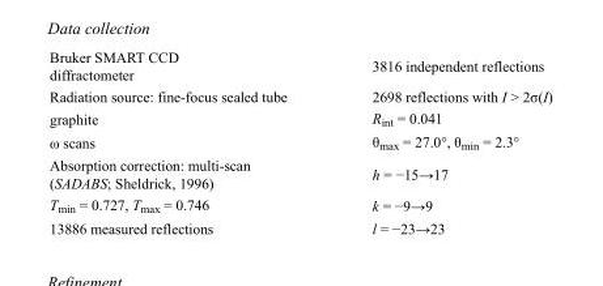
<table><tbody><tr><td>Bruker SMART CCD diffractometer</td><td>3816 independent reflections</td></tr><tr><td>Radiation source: fine-focus sealed tube</td><td>2698 reflections with I &gt; 2σ(I)</td></tr><tr><td>graphite</td><td>R<sub>int</sub> = 0.041</td></tr><tr><td>ω scans</td><td>θ<sub>max</sub> = 27.0°, θ<sub>min</sub> = 2.3°</td></tr><tr><td>Absorption correction: multi-scan (SADABS; Sheldrick, 1996)</td><td>h = −15→17</td></tr><tr><td>T<sub>min</sub> = 0.727, T<sub>max</sub> = 0.746</td><td>k = −9→9</td></tr><tr><td>13886 measured reflections</td><td>l = −23→23</td></tr></tbody></table>